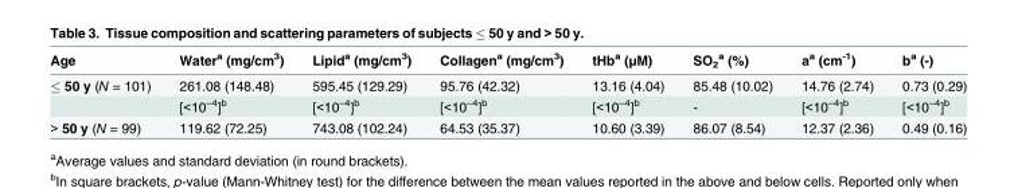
<table><thead><tr><td>Age</td><td>Water<sup>a</sup> (mg/cm<sup>3</sup>)</td><td>Lipid<sup>a</sup> (mg/cm<sup>3</sup>)</td><td>Collagen<sup>a</sup> (mg/cm<sup>3</sup>)</td><td>tHb<sup>a</sup> (μM)</td><td>SO<sub>2</sub> <sup>a</sup> (%)</td><td>a<sup>a</sup> (cm<sup>-1</sup>)</td><td>b<sup>a</sup> (-)</td></tr></thead><tbody><tr><td rowspan="2">≤ 50 y (N = 101)</td><td>261.08 (148.48)</td><td>595.45 (129.29)</td><td>95.76 (42.32)</td><td>13.16 (4.04)</td><td>85.48 (10.02)</td><td>14.76 (2.74)</td><td>0.73 (0.29)</td></tr><tr><td>[&lt;10<sup>–4</sup>]<sup>b</sup></td><td>[&lt;10<sup>–4</sup>]<sup>b</sup></td><td>[&lt;10<sup>–4</sup>]<sup>b</sup></td><td>[&lt;10<sup>–4</sup>]<sup>b</sup></td><td>-</td><td>[&lt;10<sup>–4</sup>]<sup>b</sup></td><td>[&lt;10<sup>–4</sup>]<sup>b</sup></td></tr><tr><td>&gt; 50 y (N = 99)</td><td>119.62 (72.25)</td><td>743.08 (102.24)</td><td>64.53 (35.37)</td><td>10.60 (3.39)</td><td>86.07 (8.54)</td><td>12.37 (2.36)</td><td>0.49 (0.16)</td></tr></tbody></table>